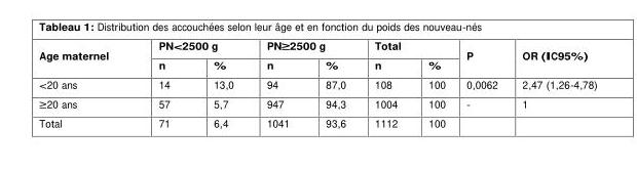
<table><thead><tr><td rowspan="2">Age maternel</td><td colspan="2">PN&lt;2500 g</td><td colspan="2">PN≥2500 g</td><td colspan="2">Total</td><td rowspan="2">P</td><td rowspan="2">OR (IC95%)</td></tr><tr><td>n</td><td>%</td><td>n</td><td>%</td><td>n</td><td>%</td></tr></thead><tbody><tr><td>&lt;20 ans</td><td>14</td><td>13,0</td><td>94</td><td>87,0</td><td>108</td><td>100</td><td>0,0062</td><td>2,47 (1,26-4,78)</td></tr><tr><td>≥20 ans</td><td>57</td><td>5,7</td><td>947</td><td>94,3</td><td>1004</td><td>100</td><td>-</td><td>1</td></tr><tr><td>Total</td><td>71</td><td>6,4</td><td>1041</td><td>93,6</td><td>1112</td><td>100</td><td></td><td></td></tr></tbody></table>